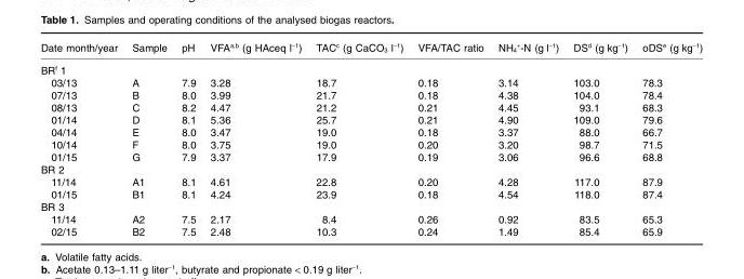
<table><thead><tr><td>Date month/year</td><td>Sample</td><td>pH</td><td>VFAa,b (g HAceq l−1)</td><td>TAC<sup>c</sup> (g CaCO<sub>3</sub> l<sup>−1</sup>)</td><td>VFA/TAC ratio</td><td>NH<sub>4</sub><sup>+</sup>-N (g l<sup>−1</sup>)</td><td>DS<sup>d</sup> (g kg<sup>−1</sup>)</td><td>oDS<sup>e</sup> (g kg<sup>−1</sup>)</td></tr></thead><tbody><tr><td colspan="9">BR<sup>f</sup> 1</td></tr><tr><td>03/13</td><td>A</td><td>7.9</td><td>3.28</td><td>18.7</td><td>0.18</td><td>3.14</td><td>103.0</td><td>78.3</td></tr><tr><td>07/13</td><td>B</td><td>8.0</td><td>3.99</td><td>21.7</td><td>0.18</td><td>4.38</td><td>104.0</td><td>78.4</td></tr><tr><td>08/13</td><td>C</td><td>8.2</td><td>4.47</td><td>21.2</td><td>0.21</td><td>4.45</td><td>93.1</td><td>68.3</td></tr><tr><td>01/14</td><td>D</td><td>8.1</td><td>5.36</td><td>25.7</td><td>0.21</td><td>4.90</td><td>109.0</td><td>79.6</td></tr><tr><td>04/14</td><td>E</td><td>8.0</td><td>3.47</td><td>19.0</td><td>0.18</td><td>3.37</td><td>88.0</td><td>66.7</td></tr><tr><td>10/14</td><td>F</td><td>8.0</td><td>3.75</td><td>19.0</td><td>0.20</td><td>3.20</td><td>98.7</td><td>71.5</td></tr><tr><td>01/15</td><td>G</td><td>7.9</td><td>3.37</td><td>17.9</td><td>0.19</td><td>3.06</td><td>96.6</td><td>68.8</td></tr><tr><td colspan="9">BR 2</td></tr><tr><td>11/14</td><td>A1</td><td>8.1</td><td>4.61</td><td>22.8</td><td>0.20</td><td>4.28</td><td>117.0</td><td>87.9</td></tr><tr><td>01/15</td><td>B1</td><td>8.1</td><td>4.24</td><td>23.9</td><td>0.18</td><td>4.54</td><td>118.0</td><td>87.4</td></tr><tr><td colspan="9">BR 3</td></tr><tr><td>11/14</td><td>A2</td><td>7.5</td><td>2.17</td><td>8.4</td><td>0.26</td><td>0.92</td><td>83.5</td><td>65.3</td></tr><tr><td>02/15</td><td>B2</td><td>7.5</td><td>2.48</td><td>10.3</td><td>0.24</td><td>1.49</td><td>85.4</td><td>65.9</td></tr></tbody></table>